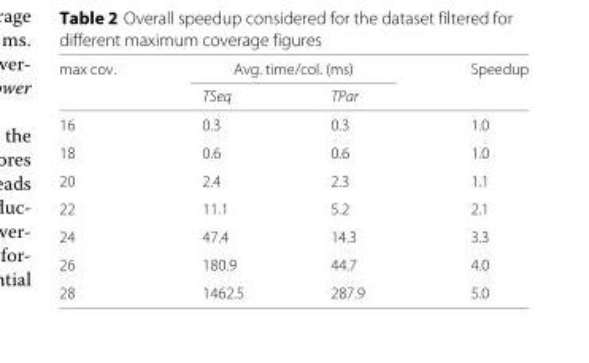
<table><thead><tr><td rowspan="2">max cov.</td><td colspan="2">Avg. time/col. (ms)</td><td rowspan="2">Speedup</td></tr><tr><td>TSeq</td><td>TPar</td></tr></thead><tbody><tr><td>16</td><td>0.3</td><td>0.3</td><td>1.0</td></tr><tr><td>18</td><td>0.6</td><td>0.6</td><td>1.0</td></tr><tr><td>20</td><td>2.4</td><td>2.3</td><td>1.1</td></tr><tr><td>22</td><td>11.1</td><td>5.2</td><td>2.1</td></tr><tr><td>24</td><td>47.4</td><td>14.3</td><td>3.3</td></tr><tr><td>26</td><td>180.9</td><td>44.7</td><td>4.0</td></tr><tr><td>28</td><td>1462.5</td><td>287.9</td><td>5.0</td></tr></tbody></table>